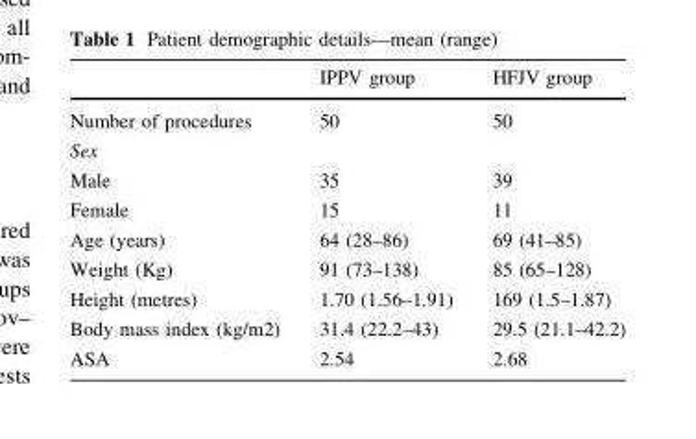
<table><thead><tr><td></td><td>IPPV group</td><td>HFJV group</td></tr></thead><tbody><tr><td>Number of procedures</td><td>50</td><td>50</td></tr><tr><td colspan="3">Sex</td></tr><tr><td>Male</td><td>35</td><td>39</td></tr><tr><td>Female</td><td>15</td><td>11</td></tr><tr><td>Age (years)</td><td>64 (28–86)</td><td>69 (41–85)</td></tr><tr><td>Weight (Kg)</td><td>91 (73–138)</td><td>85 (65–128)</td></tr><tr><td>Height (metres)</td><td>1.70 (1.56–1.91)</td><td>169 (1.5–1.87)</td></tr><tr><td>Body mass index (kg/m2)</td><td>31.4 (22.2–43)</td><td>29.5 (21.1–42.2)</td></tr><tr><td>ASA</td><td>2.54</td><td>2.68</td></tr></tbody></table>